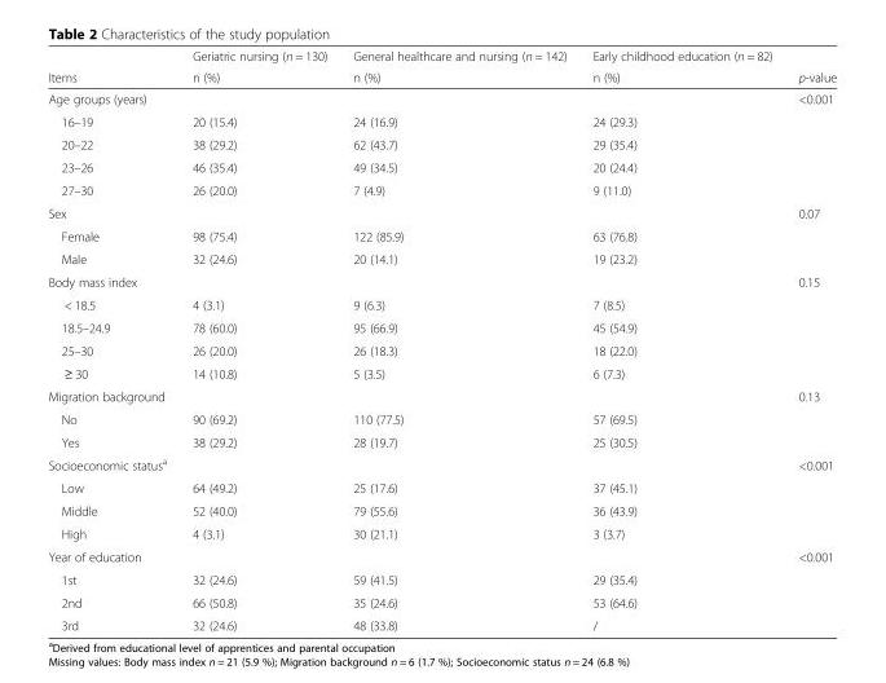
<table><thead><tr><td rowspan="2">Items</td><td rowspan="2">Geriatric nursing (n = 130) n (%)</td><td rowspan="2">General healthcare and nursing (n = 142) n (%)</td><td rowspan="2">Early childhood education (n = 82) n (%)</td><td rowspan="2">p-value</td></tr><tr></tr></thead><tbody><tr><td>Age groups (years)</td><td></td><td></td><td></td><td>&lt;0.001</td></tr><tr><td>16–19</td><td>20 (15.4)</td><td>24 (16.9)</td><td>24 (29.3)</td><td></td></tr><tr><td>20–22</td><td>38 (29.2)</td><td>62 (43.7)</td><td>29 (35.4)</td><td></td></tr><tr><td>23–26</td><td>46 (35.4)</td><td>49 (34.5)</td><td>20 (24.4)</td><td></td></tr><tr><td>27–30</td><td>26 (20.0)</td><td>7 (4.9)</td><td>9 (11.0)</td><td></td></tr><tr><td>Sex</td><td></td><td></td><td></td><td>0.07</td></tr><tr><td>Female</td><td>98 (75.4)</td><td>122 (85.9)</td><td>63 (76.8)</td><td></td></tr><tr><td>Male</td><td>32 (24.6)</td><td>20 (14.1)</td><td>19 (23.2)</td><td></td></tr><tr><td>Body mass index</td><td></td><td></td><td></td><td>0.15</td></tr><tr><td>&lt; 18.5</td><td>4 (3.1)</td><td>9 (6.3)</td><td>7 (8.5)</td><td></td></tr><tr><td>18.5–24.9</td><td>78 (60.0)</td><td>95 (66.9)</td><td>45 (54.9)</td><td></td></tr><tr><td>25–30</td><td>26 (20.0)</td><td>26 (18.3)</td><td>18 (22.0)</td><td></td></tr><tr><td>≥ 30</td><td>14 (10.8)</td><td>5 (3.5)</td><td>6 (7.3)</td><td></td></tr><tr><td>Migration background</td><td></td><td></td><td></td><td>0.13</td></tr><tr><td>No</td><td>90 (69.2)</td><td>110 (77.5)</td><td>57 (69.5)</td><td></td></tr><tr><td>Yes</td><td>38 (29.2)</td><td>28 (19.7)</td><td>25 (30.5)</td><td></td></tr><tr><td>Socioeconomic status<sup>a</sup></td><td></td><td></td><td></td><td>&lt;0.001</td></tr><tr><td>Low</td><td>64 (49.2)</td><td>25 (17.6)</td><td>37 (45.1)</td><td></td></tr><tr><td>Middle</td><td>52 (40.0)</td><td>79 (55.6)</td><td>36 (43.9)</td><td></td></tr><tr><td>High</td><td>4 (3.1)</td><td>30 (21.1)</td><td>3 (3.7)</td><td></td></tr><tr><td>Year of education</td><td></td><td></td><td></td><td>&lt;0.001</td></tr><tr><td>1st</td><td>32 (24.6)</td><td>59 (41.5)</td><td>29 (35.4)</td><td></td></tr><tr><td>2nd</td><td>66 (50.8)</td><td>35 (24.6)</td><td>53 (64.6)</td><td></td></tr><tr><td>3rd</td><td>32 (24.6)</td><td>48 (33.8)</td><td>/</td><td></td></tr></tbody></table>